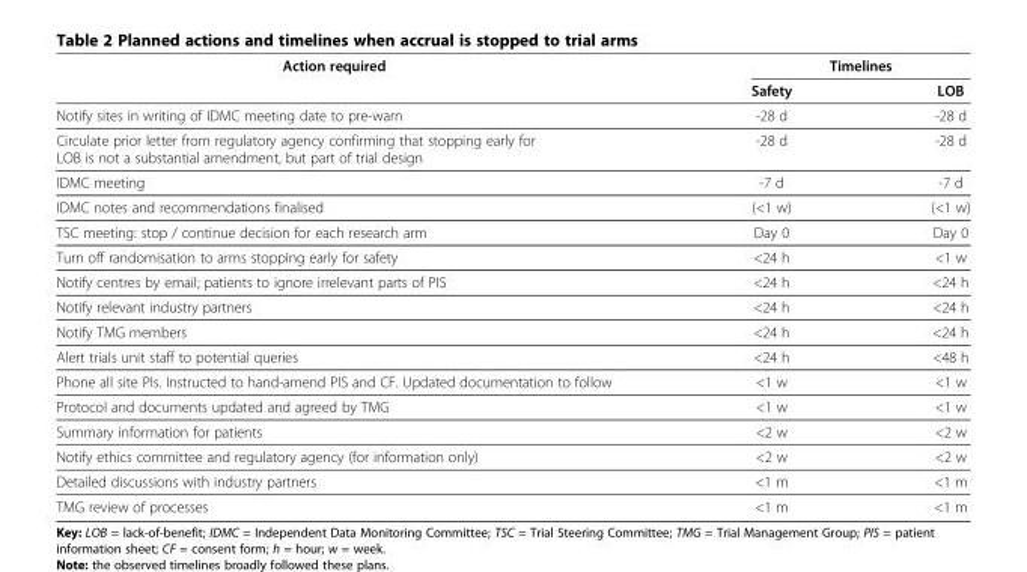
<table><thead><tr><td rowspan="2">Action required</td><td colspan="2">Timelines</td></tr><tr><td>Safety</td><td>LOB</td></tr></thead><tbody><tr><td>Notify sites in writing of IDMC meeting date to pre-warn</td><td>-28 d</td><td>-28 d</td></tr><tr><td>Circulate prior letter from regulatory agency confirming that stopping early for LOB is not a substantial amendment, but part of trial design</td><td>-28 d</td><td>-28 d</td></tr><tr><td>IDMC meeting</td><td>-7 d</td><td>-7 d</td></tr><tr><td>IDMC notes and recommendations finalised</td><td>(&lt;1 w)</td><td>(&lt;1 w)</td></tr><tr><td>TSC meeting: stop / continue decision for each research arm</td><td>Day 0</td><td>Day 0</td></tr><tr><td>Turn off randomisation to arms stopping early for safety</td><td>&lt;24 h</td><td>&lt;1 w</td></tr><tr><td>Notify centres by email; patients to ignore irrelevant parts of PIS</td><td>&lt;24 h</td><td>&lt;24 h</td></tr><tr><td>Notify relevant industry partners</td><td>&lt;24 h</td><td>&lt;24 h</td></tr><tr><td>Notify TMG members</td><td>&lt;24 h</td><td>&lt;24 h</td></tr><tr><td>Alert trials unit staff to potential queries</td><td>&lt;24 h</td><td>&lt;48 h</td></tr><tr><td>Phone all site PIs. Instructed to hand-amend PIS and CF. Updated documentation to follow</td><td>&lt;1 w</td><td>&lt;1 w</td></tr><tr><td>Protocol and documents updated and agreed by TMG</td><td>&lt;1 w</td><td>&lt;1 w</td></tr><tr><td>Summary information for patients</td><td>&lt;2 w</td><td>&lt;2 w</td></tr><tr><td>Notify ethics committee and regulatory agency (for information only)</td><td>&lt;2 w</td><td>&lt;2 w</td></tr><tr><td>Detailed discussions with industry partners</td><td>&lt;1 m</td><td>&lt;1 m</td></tr><tr><td>TMG review of processes</td><td>&lt;1 m</td><td>&lt;1 m</td></tr></tbody></table>